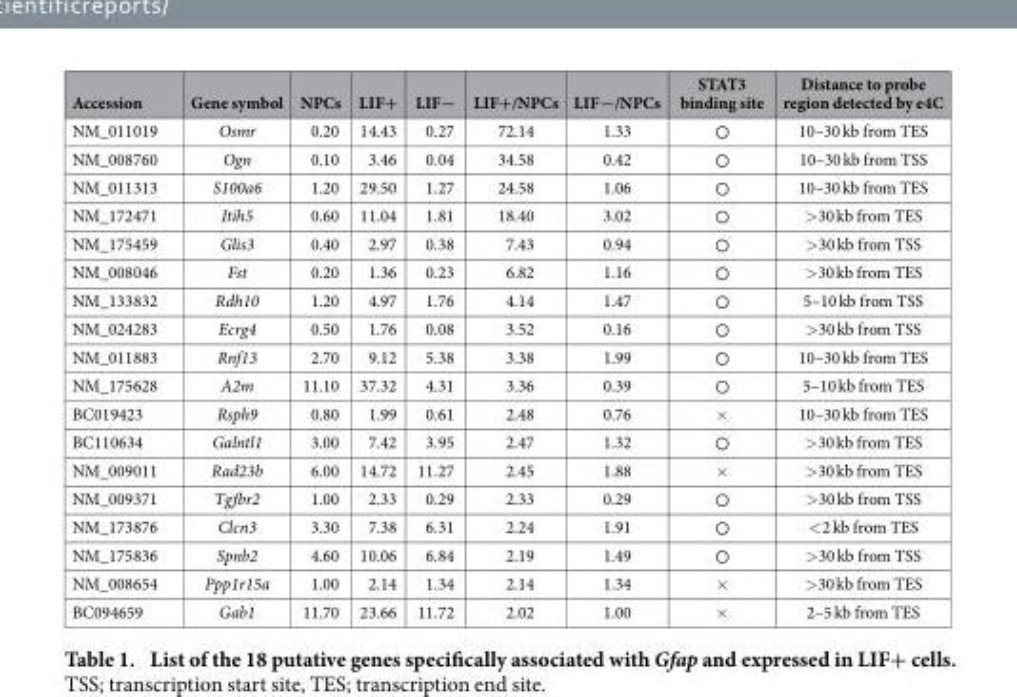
<table><thead><tr><td>Accession</td><td>Gene symbol</td><td>NPCs</td><td>LIF+</td><td>LIF−</td><td>LIF+/NPCs</td><td>LIF−/NPCs</td><td>STAT3 binding site</td><td>Distance to probe region detected by e4C</td></tr></thead><tbody><tr><td>NM_011019</td><td>Osmr</td><td>0.20</td><td>14.43</td><td>0.27</td><td>72.14</td><td>1.33</td><td>○</td><td>10–30 kb from TES</td></tr><tr><td>NM_008760</td><td>Ogn</td><td>0.10</td><td>3.46</td><td>0.04</td><td>34.58</td><td>0.42</td><td>○</td><td>10–30 kb from TSS</td></tr><tr><td>NM_011313</td><td>S100a6</td><td>1.20</td><td>29.50</td><td>1.27</td><td>24.58</td><td>1.06</td><td>○</td><td>10–30 kb from TES</td></tr><tr><td>NM_172471</td><td>Itih5</td><td>0.60</td><td>11.04</td><td>1.81</td><td>18.40</td><td>3.02</td><td>○</td><td>&gt;30 kb from TES</td></tr><tr><td>NM_175459</td><td>Glis3</td><td>0.40</td><td>2.97</td><td>0.38</td><td>7.43</td><td>0.94</td><td>○</td><td>&gt;30 kb from TSS</td></tr><tr><td>NM_008046</td><td>Fst</td><td>0.20</td><td>1.36</td><td>0.23</td><td>6.82</td><td>1.16</td><td>○</td><td>&gt;30 kb from TES</td></tr><tr><td>NM_133832</td><td>Rdh10</td><td>1.20</td><td>4.97</td><td>1.76</td><td>4.14</td><td>1.47</td><td>○</td><td>5–10 kb from TSS</td></tr><tr><td>NM_024283</td><td>Ecrg4</td><td>0.50</td><td>1.76</td><td>0.08</td><td>3.52</td><td>0.16</td><td>○</td><td>&gt;30 kb from TSS</td></tr><tr><td>NM_011883</td><td>Rnf13</td><td>2.70</td><td>9.12</td><td>5.38</td><td>3.38</td><td>1.99</td><td>○</td><td>10–30 kb from TES</td></tr><tr><td>NM_175628</td><td>A2m</td><td>11.10</td><td>37.32</td><td>4.31</td><td>3.36</td><td>0.39</td><td>○</td><td>5–10 kb from TES</td></tr><tr><td>BC019423</td><td>Rsph9</td><td>0.80</td><td>1.99</td><td>0.61</td><td>2.48</td><td>0.76</td><td>×</td><td>10–30 kb from TES</td></tr><tr><td>BC110634</td><td>Galntl1</td><td>3.00</td><td>7.42</td><td>3.95</td><td>2.47</td><td>1.32</td><td>○</td><td>&gt;30 kb from TES</td></tr><tr><td>NM_009011</td><td>Rad23b</td><td>6.00</td><td>14.72</td><td>11.27</td><td>2.45</td><td>1.88</td><td>×</td><td>&gt;30 kb from TES</td></tr><tr><td>NM_009371</td><td>Tgfbr2</td><td>1.00</td><td>2.33</td><td>0.29</td><td>2.33</td><td>0.29</td><td>○</td><td>&gt;30 kb from TSS</td></tr><tr><td>NM_173876</td><td>Clcn3</td><td>3.30</td><td>7.38</td><td>6.31</td><td>2.24</td><td>1.91</td><td>○</td><td>&lt; 2 kb from TES</td></tr><tr><td>NM_175836</td><td>Spnb2</td><td>4.60</td><td>10.06</td><td>6.84</td><td>2.19</td><td>1.49</td><td>○</td><td>&gt;30 kb from TSS</td></tr><tr><td>NM_008654</td><td>Ppp1r15a</td><td>1.00</td><td>2.14</td><td>1.34</td><td>2.14</td><td>1.34</td><td>×</td><td>&gt;30 kb from TES</td></tr><tr><td>BC094659</td><td>Gab1</td><td>11.70</td><td>23.66</td><td>11.72</td><td>2.02</td><td>1.00</td><td>×</td><td>2–5 kb from TES</td></tr></tbody></table>